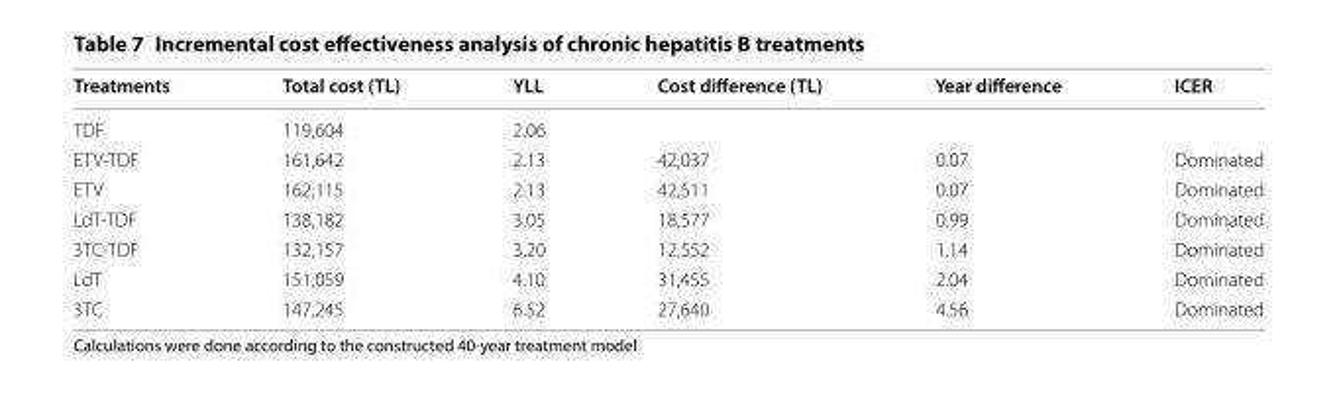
<table><thead><tr><td>Treatments</td><td>Total cost (TL)</td><td>YLL</td><td>Cost difference (TL)</td><td>Year difference</td><td>ICER</td></tr></thead><tbody><tr><td>TDF</td><td>119,604</td><td>2.06</td><td></td><td></td><td></td></tr><tr><td>ETV-TDF</td><td>161,642</td><td>2.13</td><td>42,037</td><td>0.07</td><td>Dominated</td></tr><tr><td>ETV</td><td>162,115</td><td>2.13</td><td>42,511</td><td>0.07</td><td>Dominated</td></tr><tr><td>LdT-TDF</td><td>138,182</td><td>3.05</td><td>18,577</td><td>0.99</td><td>Dominated</td></tr><tr><td>3TC-TDF</td><td>132,157</td><td>3.20</td><td>12,552</td><td>1.14</td><td>Dominated</td></tr><tr><td>LdT</td><td>151,059</td><td>4.10</td><td>31,455</td><td>2.04</td><td>Dominated</td></tr><tr><td>3TC</td><td>147,245</td><td>6.52</td><td>27,640</td><td>4.56</td><td>Dominated</td></tr></tbody></table>